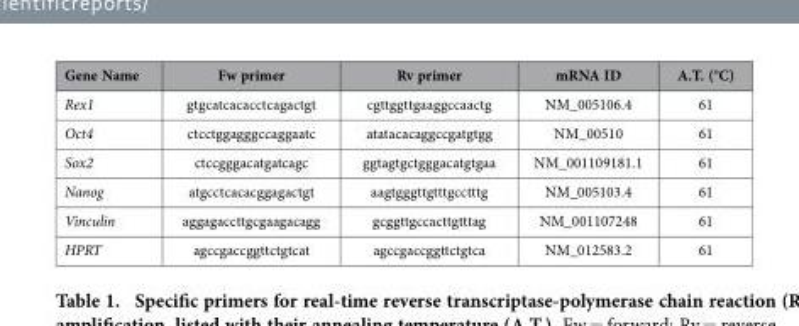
<table><thead><tr><td>Gene Name</td><td>Fw primer</td><td>Rv primer</td><td>mRNA ID</td><td>A.T. (°C)</td></tr></thead><tbody><tr><td>Rex1</td><td>gtgcatcacacctcagactgt</td><td>cgttggttgaaggccaactg</td><td>NM_005106.4</td><td>61</td></tr><tr><td>Oct4</td><td>ctcctggagggccaggaatc</td><td>atatacacaggccgatgtgg</td><td>NM_00510</td><td>61</td></tr><tr><td>Sox2</td><td>ctccgggacatgatcagc</td><td>ggtagtgctgggacatgtgaa</td><td>NM_001109181.1</td><td>61</td></tr><tr><td>Nanog</td><td>atgcctcacacggagactgt</td><td>aagtgggttgtttgcctttg</td><td>NM_005103.4</td><td>61</td></tr><tr><td>Vinculin</td><td>aggagaccttgcgaagacagg</td><td>gcggttgccacttgtttag</td><td>NM_001107248</td><td>61</td></tr><tr><td>HPRT</td><td>agccgaccggttctgtcat</td><td>agccgaccggttctgtca</td><td>NM_012583.2</td><td>61</td></tr></tbody></table>